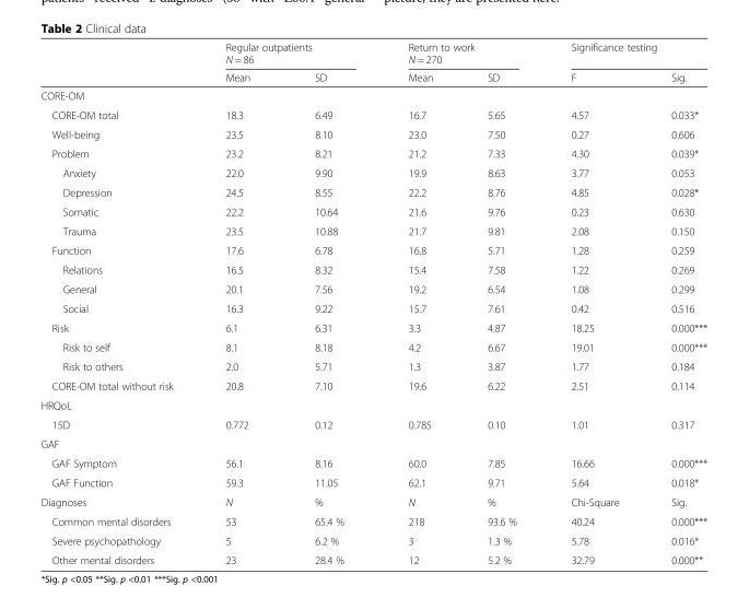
<table><thead><tr><td rowspan="2"></td><td colspan="2">Regular outpatients N = 86</td><td colspan="2">Return to work N = 270</td><td colspan="2">Significance testing</td></tr><tr><td>Mean</td><td>SD</td><td>Mean</td><td>SD</td><td>F</td><td>Sig.</td></tr></thead><tbody><tr><td colspan="7">CORE-OM</td></tr><tr><td>CORE-OM total</td><td>18.3</td><td>6.49</td><td>16.7</td><td>5.65</td><td>4.57</td><td>0.033*</td></tr><tr><td>Well-being</td><td>23.5</td><td>8.10</td><td>23.0</td><td>7.50</td><td>0.27</td><td>0.606</td></tr><tr><td>Problem</td><td>23.2</td><td>8.21</td><td>21.2</td><td>7.33</td><td>4.30</td><td>0.039*</td></tr><tr><td>Anxiety</td><td>22.0</td><td>9.90</td><td>19.9</td><td>8.63</td><td>3.77</td><td>0.053</td></tr><tr><td>Depression</td><td>24.5</td><td>8.55</td><td>22.2</td><td>8.76</td><td>4.85</td><td>0.028*</td></tr><tr><td>Somatic</td><td>22.2</td><td>10.64</td><td>21.6</td><td>9.76</td><td>0.23</td><td>0.630</td></tr><tr><td>Trauma</td><td>23.5</td><td>10.88</td><td>21.7</td><td>9.81</td><td>2.08</td><td>0.150</td></tr><tr><td>Function</td><td>17.6</td><td>6.78</td><td>16.8</td><td>5.71</td><td>1.28</td><td>0.259</td></tr><tr><td>Relations</td><td>16.5</td><td>8.32</td><td>15.4</td><td>7.58</td><td>1.22</td><td>0.269</td></tr><tr><td>General</td><td>20.1</td><td>7.56</td><td>19.2</td><td>6.54</td><td>1.08</td><td>0.299</td></tr><tr><td>Social</td><td>16.3</td><td>9.22</td><td>15.7</td><td>7.61</td><td>0.42</td><td>0.516</td></tr><tr><td>Risk</td><td>6.1</td><td>6.31</td><td>3.3</td><td>4.87</td><td>18.25</td><td>0.000***</td></tr><tr><td>Risk to self</td><td>8.1</td><td>8.18</td><td>4.2</td><td>6.67</td><td>19.01</td><td>0.000***</td></tr><tr><td>Risk to others</td><td>2.0</td><td>5.71</td><td>1.3</td><td>3.87</td><td>1.77</td><td>0.184</td></tr><tr><td>CORE-OM total without risk</td><td>20.8</td><td>7.10</td><td>19.6</td><td>6.22</td><td>2.51</td><td>0.114</td></tr><tr><td colspan="7">HRQoL</td></tr><tr><td>15D</td><td>0.772</td><td>0.12</td><td>0.785</td><td>0.10</td><td>1.01</td><td>0.317</td></tr><tr><td colspan="7">GAF</td></tr><tr><td>GAF Symptom</td><td>56.1</td><td>8.16</td><td>60.0</td><td>7.85</td><td>16.66</td><td>0.000***</td></tr><tr><td>GAF Function</td><td>59.3</td><td>11.05</td><td>62.1</td><td>9.71</td><td>5.64</td><td>0.018*</td></tr><tr><td>Diagnoses</td><td>N</td><td>%</td><td>N</td><td>%</td><td>Chi-Square</td><td>Sig.</td></tr><tr><td>Common mental disorders</td><td>53</td><td>65.4 %</td><td>218</td><td>93.6 %</td><td>40.24</td><td>0.000***</td></tr><tr><td>Severe psychopathology</td><td>5</td><td>6.2 %</td><td>3</td><td>1.3 %</td><td>5.78</td><td>0.016*</td></tr><tr><td>Other mental disorders</td><td>23</td><td>28.4 %</td><td>12</td><td>5.2 %</td><td>32.79</td><td>0.000**</td></tr></tbody></table>